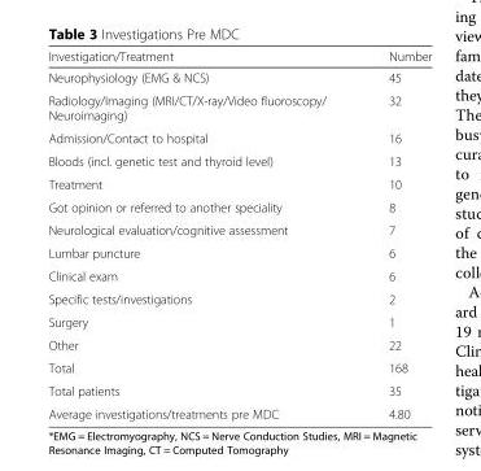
<table><thead><tr><td>Investigation/Treatment</td><td>Number</td></tr></thead><tbody><tr><td>Neurophysiology (EMG &amp; NCS)</td><td>45</td></tr><tr><td>Radiology/Imaging (MRI/CT/X-ray/Video fluoroscopy/ Neuroimaging)</td><td>32</td></tr><tr><td>Admission/Contact to hospital</td><td>16</td></tr><tr><td>Bloods (incl. genetic test and thyroid level)</td><td>13</td></tr><tr><td>Treatment</td><td>10</td></tr><tr><td>Got opinion or referred to another speciality</td><td>8</td></tr><tr><td>Neurological evaluation/cognitive assessment</td><td>7</td></tr><tr><td>Lumbar puncture</td><td>6</td></tr><tr><td>Clinical exam</td><td>6</td></tr><tr><td>Specific tests/investigations</td><td>2</td></tr><tr><td>Surgery</td><td>1</td></tr><tr><td>Other</td><td>22</td></tr><tr><td>Total</td><td>168</td></tr><tr><td>Total patients</td><td>35</td></tr><tr><td>Average investigations/treatments pre MDC</td><td>4.80</td></tr></tbody></table>